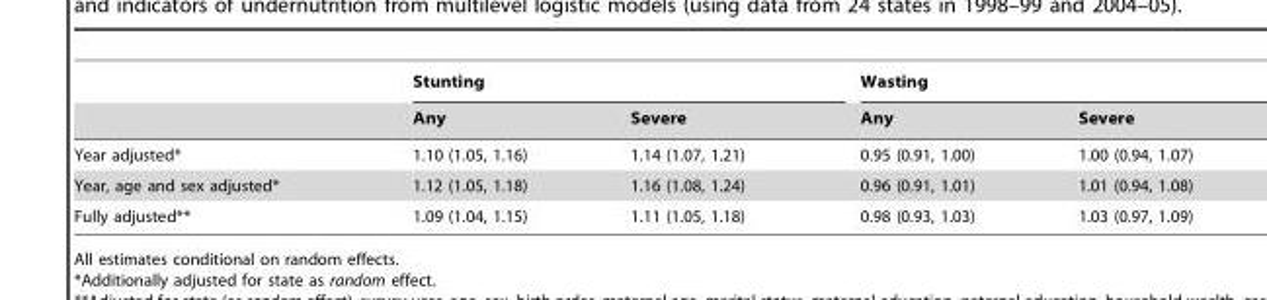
<table><thead><tr><td rowspan="2"></td><td colspan="2">Stunting</td><td colspan="2">Wasting</td></tr><tr><td>Any</td><td>Severe</td><td>Any</td><td>Severe</td></tr></thead><tbody><tr><td>Year adjusted*</td><td>1.10 (1.05, 1.16)</td><td>1.14 (1.07, 1.21)</td><td>0.95 (0.91, 1.00)</td><td>1.00 (0.94, 1.07)</td></tr><tr><td>Year, age and sex adjusted*</td><td>1.12 (1.05, 1.18)</td><td>1.16 (1.08, 1.24)</td><td>0.96 (0.91, 1.01)</td><td>1.01 (0.94, 1.08)</td></tr><tr><td>Fully adjusted**</td><td>1.09 (1.04, 1.15)</td><td>1.11 (1.05, 1.18)</td><td>0.98 (0.93, 1.03)</td><td>1.03 (0.97, 1.09)</td></tr></tbody></table>